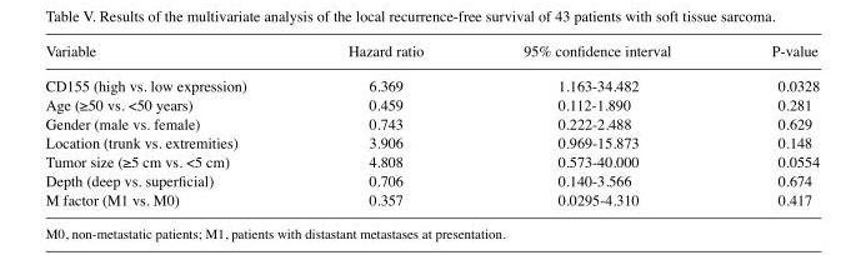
<table><thead><tr><td>Variable</td><td>Hazard ratio</td><td>95% confidence interval</td><td>P‑value</td></tr></thead><tbody><tr><td>CD155 (high vs. low expression)</td><td>6.369</td><td>1.163-34.482</td><td>0.0328</td></tr><tr><td>Age (≥50 vs. &lt;50 years)</td><td>0.459</td><td>0.112‑1.890</td><td>0.281</td></tr><tr><td>Gender (male vs. female)</td><td>0.743</td><td>0.222-2.488</td><td>0.629</td></tr><tr><td>Location (trunk vs. extremities)</td><td>3.906</td><td>0.969-15.873</td><td>0.148</td></tr><tr><td>Tumor size (≥5 cm vs. &lt;5 cm)</td><td>4.808</td><td>0.573‑40.000</td><td>0.0554</td></tr><tr><td>Depth (deep vs. superficial)</td><td>0.706</td><td>0.140‑3.566</td><td>0.674</td></tr><tr><td>M factor (M1 vs. M0)</td><td>0.357</td><td>0.0295-4.310</td><td>0.417</td></tr></tbody></table>